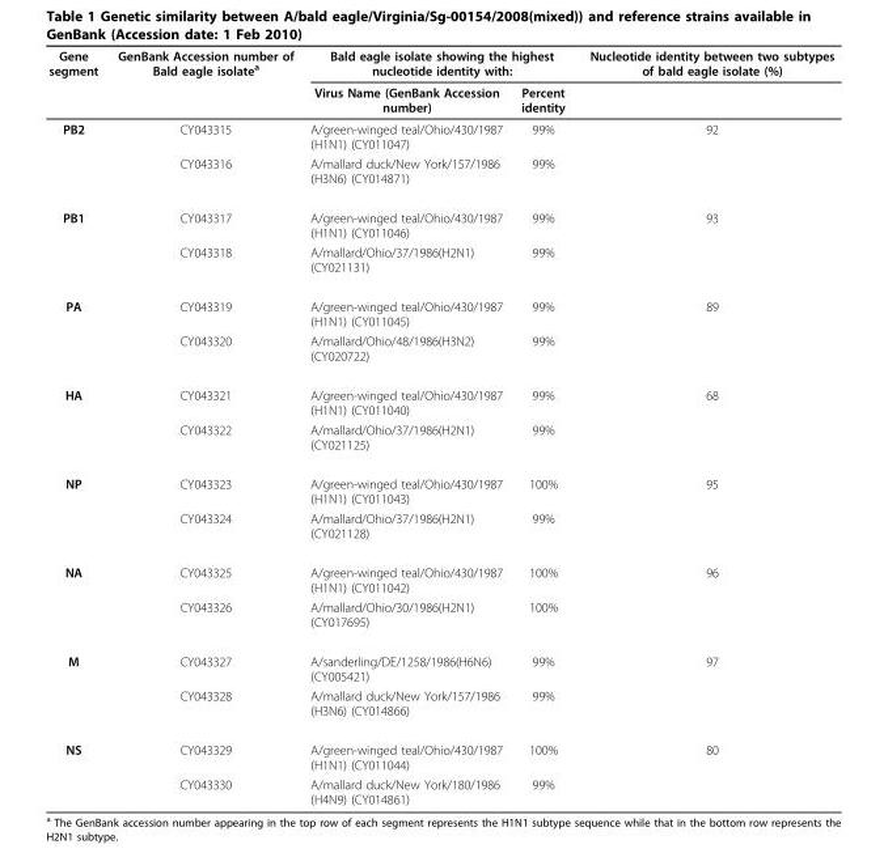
<table><thead><tr><td rowspan="2">Gene segment</td><td rowspan="2">GenBank Accession number of Bald eagle isolate<sup>a</sup></td><td colspan="2">Bald eagle isolate showing the highest nucleotide identity with:</td><td rowspan="2">Nucleotide identity between two subtypes of bald eagle isolate (%)</td></tr><tr><td>Virus Name (GenBank Accession number)</td><td>Percent identity</td></tr></thead><tbody><tr><td rowspan="2">PB2</td><td>CY043315</td><td>A/green-winged teal/Ohio/430/1987 (H1N1) (CY011047)</td><td>99%</td><td>92</td></tr><tr><td>CY043316</td><td>A/mallard duck/New York/157/1986 (H3N6) (CY014871)</td><td>99%</td><td></td></tr><tr><td rowspan="2">PB1</td><td>CY043317</td><td>A/green-winged teal/Ohio/430/1987 (H1N1) (CY011046)</td><td>99%</td><td>93</td></tr><tr><td>CY043318</td><td>A/mallard/Ohio/37/1986(H2N1) (CY021131)</td><td>99%</td><td></td></tr><tr><td rowspan="2">PA</td><td>CY043319</td><td>A/green-winged teal/Ohio/430/1987 (H1N1) (CY011045)</td><td>99%</td><td>89</td></tr><tr><td>CY043320</td><td>A/mallard/Ohio/48/1986(H3N2) (CY020722)</td><td>99%</td><td></td></tr><tr><td rowspan="2">HA</td><td>CY043321</td><td>A/green-winged teal/Ohio/430/1987 (H1N1) (CY011040)</td><td>99%</td><td>68</td></tr><tr><td>CY043322</td><td>A/mallard/Ohio/37/1986(H2N1) (CY021125)</td><td>99%</td><td></td></tr><tr><td rowspan="2">NP</td><td>CY043323</td><td>A/green-winged teal/Ohio/430/1987 (H1N1) (CY011043)</td><td>100%</td><td>95</td></tr><tr><td>CY043324</td><td>A/mallard/Ohio/37/1986(H2N1) (CY021128)</td><td>99%</td><td></td></tr><tr><td rowspan="2">NA</td><td>CY043325</td><td>A/green-winged teal/Ohio/430/1987 (H1N1) (CY011042)</td><td>100%</td><td>96</td></tr><tr><td>CY043326</td><td>A/mallard/Ohio/30/1986(H2N1) (CY017695)</td><td>100%</td><td></td></tr><tr><td rowspan="2">M</td><td>CY043327</td><td>A/sanderling/DE/1258/1986(H6N6) (CY005421)</td><td>99%</td><td>97</td></tr><tr><td>CY043328</td><td>A/mallard duck/New York/157/1986 (H3N6) (CY014866)</td><td>99%</td><td></td></tr><tr><td rowspan="2">NS</td><td>CY043329</td><td>A/green-winged teal/Ohio/430/1987 (H1N1) (CY011044)</td><td>100%</td><td>80</td></tr><tr><td>CY043330</td><td>A/mallard duck/New York/180/1986 (H4N9) (CY014861)</td><td>99%</td><td></td></tr></tbody></table>